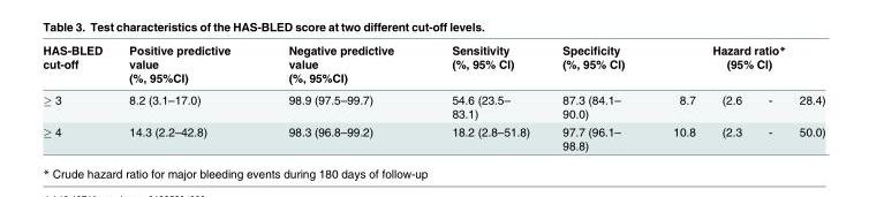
<table><thead><tr><td rowspan="2">HAS-BLED cut-off ≥ 3</td><td rowspan="2">Positive predictive value (%, 95%CI) 8.2 (3.1–17.0)</td><td rowspan="2">Negative predictive value (%, 95%CI) 98.9 (97.5–99.7)</td><td rowspan="2">Sensitivity (%, 95% CI) 54.6 (23.5– 83.1)</td><td rowspan="2">Specificity (%, 95% CI) 87.3 (84.1– 90.0)</td><td colspan="4">Hazard ratio* (95% CI)</td></tr><tr><td>8.7</td><td>(2.6</td><td>-</td><td>28.4)</td></tr></thead><tbody><tr><td>≥ 4</td><td>14.3 (2.2–42.8)</td><td>98.3 (96.8–99.2)</td><td>18.2 (2.8–51.8)</td><td>97.7 (96.1– 98.8)</td><td>10.8</td><td>(2.3</td><td>-</td><td>50.0)</td></tr></tbody></table>